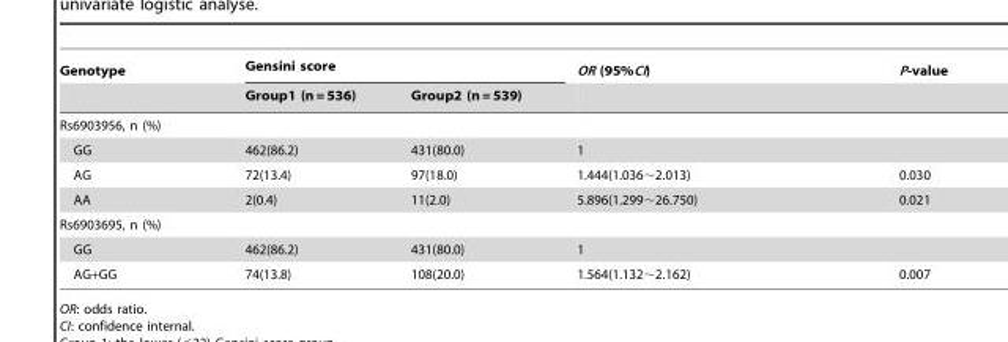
<table><thead><tr><td rowspan="2">Genotype</td><td colspan="2">Gensini score</td><td rowspan="2">OR (95%CI)</td><td rowspan="2">P-value</td></tr><tr><td>Group1 (n = 536)</td><td>Group2 (n = 539)</td></tr></thead><tbody><tr><td colspan="5">Rs6903956, n (%)</td></tr><tr><td>GG</td><td>462(86.2)</td><td>431(80.0)</td><td>1</td><td></td></tr><tr><td>AG</td><td>72(13.4)</td><td>97(18.0)</td><td>1.444(1.036∼2.013)</td><td>0.030</td></tr><tr><td>AA</td><td>2(0.4)</td><td>11(2.0)</td><td>5.896(1.299∼26.750)</td><td>0.021</td></tr><tr><td colspan="5">Rs6903695, n (%)</td></tr><tr><td>GG</td><td>462(86.2)</td><td>431(80.0)</td><td>1</td><td></td></tr><tr><td>AG+GG</td><td>74(13.8)</td><td>108(20.0)</td><td>1.564(1.132∼2.162)</td><td>0.007</td></tr></tbody></table>